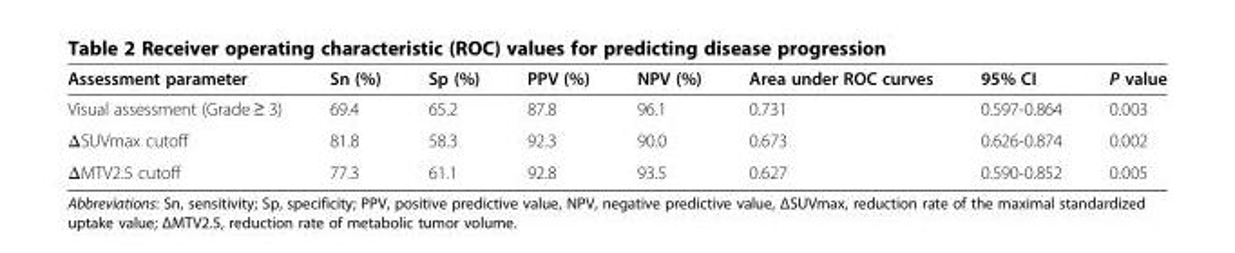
<table><thead><tr><td>Assessment parameter</td><td>Sn (%)</td><td>Sp (%)</td><td>PPV (%)</td><td>NPV (%)</td><td>Area under ROC curves</td><td>95% CI</td><td>P value</td></tr></thead><tbody><tr><td>Visual assessment (Grade ≥ 3)</td><td>69.4</td><td>65.2</td><td>87.8</td><td>96.1</td><td>0.731</td><td>0.597-0.864</td><td>0.003</td></tr><tr><td>ΔSUVmax cutoff</td><td>81.8</td><td>58.3</td><td>92.3</td><td>90.0</td><td>0.673</td><td>0.626-0.874</td><td>0.002</td></tr><tr><td>ΔMTV2.5 cutoff</td><td>77.3</td><td>61.1</td><td>92.8</td><td>93.5</td><td>0.627</td><td>0.590-0.852</td><td>0.005</td></tr></tbody></table>